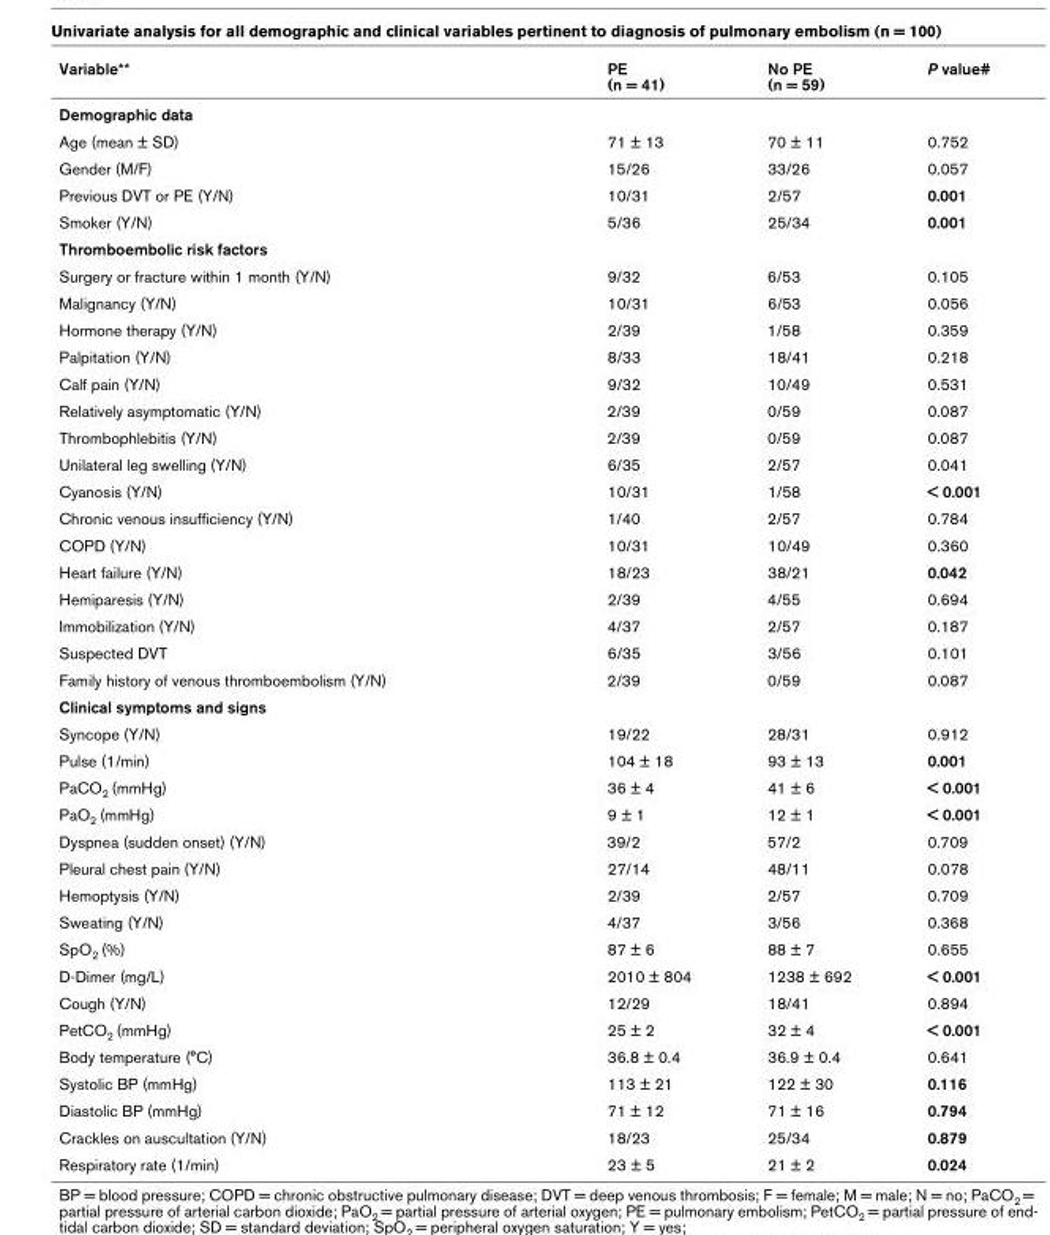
<table><thead><tr><td>Variable**</td><td>PE (n = 41)</td><td>No PE (n = 59)</td><td>P value#</td></tr></thead><tbody><tr><td colspan="4">Demographic data</td></tr><tr><td>Age (mean ± SD)</td><td>71 ± 13</td><td>70 ± 11</td><td>0.752</td></tr><tr><td>Gender (M/F)</td><td>15/26</td><td>33/26</td><td>0.057</td></tr><tr><td>Previous DVT or PE (Y/N)</td><td>10/31</td><td>2/57</td><td>0.001</td></tr><tr><td>Smoker (Y/N)</td><td>5/36</td><td>25/34</td><td>0.001</td></tr><tr><td colspan="4">Thromboembolic risk factors</td></tr><tr><td>Surgery or fracture within 1 month (Y/N)</td><td>9/32</td><td>6/53</td><td>0.105</td></tr><tr><td>Malignancy (Y/N)</td><td>10/31</td><td>6/53</td><td>0.056</td></tr><tr><td>Hormone therapy (Y/N)</td><td>2/39</td><td>1/58</td><td>0.359</td></tr><tr><td>Palpitation (Y/N)</td><td>8/33</td><td>18/41</td><td>0.218</td></tr><tr><td>Calf pain (Y/N)</td><td>9/32</td><td>10/49</td><td>0.531</td></tr><tr><td>Relatively asymptomatic (Y/N)</td><td>2/39</td><td>0/59</td><td>0.087</td></tr><tr><td>Thrombophlebitis (Y/N)</td><td>2/39</td><td>0/59</td><td>0.087</td></tr><tr><td>Unilateral leg swelling (Y/N)</td><td>6/35</td><td>2/57</td><td>0.041</td></tr><tr><td>Cyanosis (Y/N)</td><td>10/31</td><td>1/58</td><td>&lt; 0.001</td></tr><tr><td>Chronic venous insufficiency (Y/N)</td><td>1/40</td><td>2/57</td><td>0.784</td></tr><tr><td>COPD (Y/N)</td><td>10/31</td><td>10/49</td><td>0.360</td></tr><tr><td>Heart failure (Y/N)</td><td>18/23</td><td>38/21</td><td>0.042</td></tr><tr><td>Hemiparesis (Y/N)</td><td>2/39</td><td>4/55</td><td>0.694</td></tr><tr><td>Immobilization (Y/N)</td><td>4/37</td><td>2/57</td><td>0.187</td></tr><tr><td>Suspected DVT</td><td>6/35</td><td>3/56</td><td>0.101</td></tr><tr><td>Family history of venous thromboembolism (Y/N)</td><td>2/39</td><td>0/59</td><td>0.087</td></tr><tr><td colspan="4">Clinical symptoms and signs</td></tr><tr><td>Syncope (Y/N)</td><td>19/22</td><td>28/31</td><td>0.912</td></tr><tr><td>Pulse (1/min)</td><td>104 ± 18</td><td>93 ± 13</td><td>0.001</td></tr><tr><td>PaCO<sub>2</sub> (mmHg)</td><td>36 ± 4</td><td>41 ± 6</td><td>&lt; 0.001</td></tr><tr><td>PaO<sub>2</sub> (mmHg)</td><td>9 ± 1</td><td>12 ± 1</td><td>&lt; 0.001</td></tr><tr><td>Dyspnea (sudden onset) (Y/N)</td><td>39/2</td><td>57/2</td><td>0.709</td></tr><tr><td>Pleural chest pain (Y/N)</td><td>27/14</td><td>48/11</td><td>0.078</td></tr><tr><td>Hemoptysis (Y/N)</td><td>2/39</td><td>2/57</td><td>0.709</td></tr><tr><td>Sweating (Y/N)</td><td>4/37</td><td>3/56</td><td>0.368</td></tr><tr><td>SpO<sub>2</sub> (%)</td><td>87 ± 6</td><td>88 ± 7</td><td>0.655</td></tr><tr><td>D-Dimer (mg/L)</td><td>2010 ± 804</td><td>1238 ± 692</td><td>&lt; 0.001</td></tr><tr><td>Cough (Y/N)</td><td>12/29</td><td>18/41</td><td>0.894</td></tr><tr><td>PetCO<sub>2</sub> (mmHg)</td><td>25 ± 2</td><td>32 ± 4</td><td>&lt; 0.001</td></tr><tr><td>Body temperature (°C)</td><td>36.8 ± 0.4</td><td>36.9 ± 0.4</td><td>0.641</td></tr><tr><td>Systolic BP (mmHg)</td><td>113 ± 21</td><td>122 ± 30</td><td>0.116</td></tr><tr><td>Diastolic BP (mmHg)</td><td>71 ± 12</td><td>71 ± 16</td><td>0.794</td></tr><tr><td>Crackles on auscultation (Y/N)</td><td>18/23</td><td>25/34</td><td>0.879</td></tr><tr><td>Respiratory rate (1/min)</td><td>23 ± 5</td><td>21 ± 2</td><td>0.024</td></tr></tbody></table>